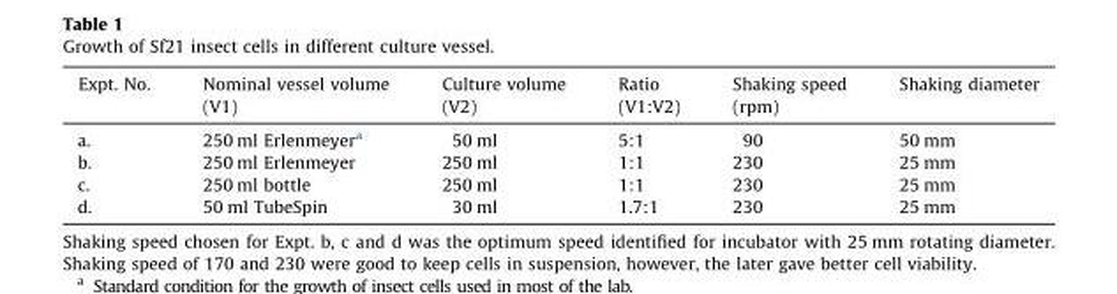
<table><thead><tr><td>Expt. No.</td><td>Nominal vessel volume (V1)</td><td>Culture volume (V2)</td><td>Ratio [3_TD$DIF](V1:V2)</td><td>Shaking speed (rpm)</td><td>Shaking diameter</td></tr></thead><tbody><tr><td>a.</td><td>250 ml Erlenmeyer<sup>a</sup></td><td>50 ml</td><td>5:1</td><td>90</td><td>50 mm</td></tr><tr><td>b.</td><td>250 ml Erlenmeyer</td><td>250 ml</td><td>1:1</td><td>230</td><td>25 mm</td></tr><tr><td>c.</td><td>250 ml bottle</td><td>250 ml</td><td>1:1</td><td>230</td><td>25 mm</td></tr><tr><td>d.</td><td>50 ml TubeSpin</td><td>30 ml</td><td>1.7:1</td><td>230</td><td>25 mm</td></tr></tbody></table>